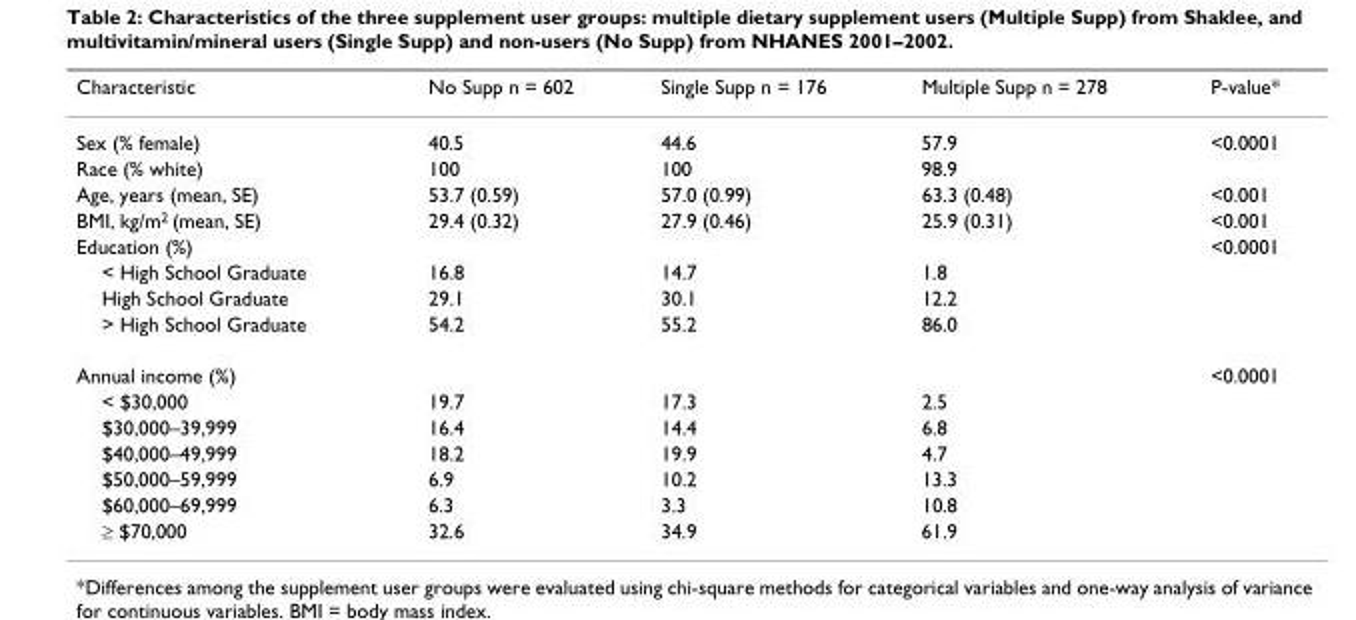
<table><thead><tr><td>Characteristic</td><td>No Supp n = 602</td><td>Single Supp n = 176</td><td>Multiple Supp n = 278</td><td>P-value*</td></tr></thead><tbody><tr><td>Sex (% female)</td><td>40.5</td><td>44.6</td><td>57.9</td><td>&lt;0.0001</td></tr><tr><td>Race (% white)</td><td>100</td><td>100</td><td>98.9</td><td></td></tr><tr><td>Age, years (mean, SE)</td><td>53.7 (0.59)</td><td>57.0 (0.99)</td><td>63.3 (0.48)</td><td>&lt;0.001</td></tr><tr><td>BMI, kg/m<sup>2</sup> (mean, SE)</td><td>29.4 (0.32)</td><td>27.9 (0.46)</td><td>25.9 (0.31)</td><td>&lt;0.001</td></tr><tr><td>Education (%)</td><td></td><td></td><td></td><td>&lt;0.0001</td></tr><tr><td>&lt; High School Graduate</td><td>16.8</td><td>14.7</td><td>1.8</td><td></td></tr><tr><td>High School Graduate</td><td>29.1</td><td>30.1</td><td>12.2</td><td></td></tr><tr><td>&gt; High School Graduate</td><td>54.2</td><td>55.2</td><td>86.0</td><td></td></tr><tr><td>Annual income (%)</td><td></td><td></td><td></td><td>&lt;0.0001</td></tr><tr><td>&lt; $30,000</td><td>19.7</td><td>17.3</td><td>2.5</td><td></td></tr><tr><td>$30,000–39,999</td><td>16.4</td><td>14.4</td><td>6.8</td><td></td></tr><tr><td>$40,000–49,999</td><td>18.2</td><td>19.9</td><td>4.7</td><td></td></tr><tr><td>$50,000–59,999</td><td>6.9</td><td>10.2</td><td>13.3</td><td></td></tr><tr><td>$60,000–69,999</td><td>6.3</td><td>3.3</td><td>10.8</td><td></td></tr><tr><td>≥ $70,000</td><td>32.6</td><td>34.9</td><td>61.9</td><td></td></tr></tbody></table>